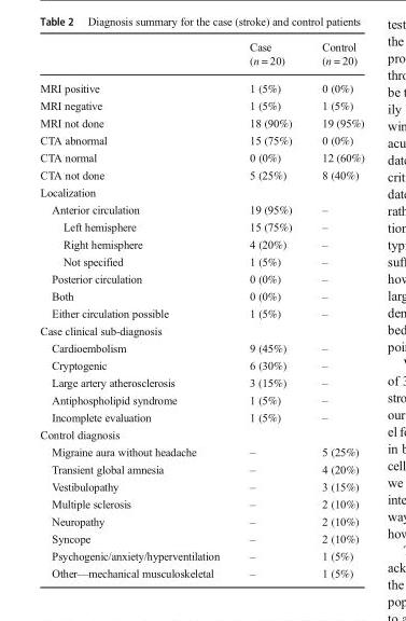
<table><thead><tr><td></td><td>Case (n = 20)</td><td>Control (n = 20)</td></tr></thead><tbody><tr><td>MRI positive</td><td>1 (5%)</td><td>0 (0%)</td></tr><tr><td>MRI negative</td><td>1 (5%)</td><td>1 (5%)</td></tr><tr><td>MRI not done</td><td>18 (90%)</td><td>19 (95%)</td></tr><tr><td>CTA abnormal</td><td>15 (75%)</td><td>0 (0%)</td></tr><tr><td>CTA normal</td><td>0 (0%)</td><td>12 (60%)</td></tr><tr><td>CTA not done</td><td>5 (25%)</td><td>8 (40%)</td></tr><tr><td colspan="3">Localization</td></tr><tr><td>Anterior circulation</td><td>19 (95%)</td><td>–</td></tr><tr><td>Left hemisphere</td><td>15 (75%)</td><td>–</td></tr><tr><td>Right hemisphere</td><td>4 (20%)</td><td>–</td></tr><tr><td>Not specified</td><td>1 (5%)</td><td>–</td></tr><tr><td>Posterior circulation</td><td>0 (0%)</td><td>–</td></tr><tr><td>Both</td><td>0 (0%)</td><td>–</td></tr><tr><td>Either circulation possible</td><td>1 (5%)</td><td>–</td></tr><tr><td colspan="3">Case clinical sub-diagnosis</td></tr><tr><td>Cardioembolism</td><td>9 (45%)</td><td>–</td></tr><tr><td>Cryptogenic</td><td>6 (30%)</td><td>–</td></tr><tr><td>Large artery atherosclerosis</td><td>3 (15%)</td><td>–</td></tr><tr><td>Antiphospholipid syndrome</td><td>1 (5%)</td><td>–</td></tr><tr><td>Incomplete evaluation</td><td>1 (5%)</td><td>–</td></tr><tr><td colspan="3">Control diagnosis</td></tr><tr><td>Migraine aura without headache</td><td>–</td><td>5 (25%)</td></tr><tr><td>Transient global amnesia</td><td>–</td><td>4 (20%)</td></tr><tr><td>Vestibulopathy</td><td>–</td><td>3 (15%)</td></tr><tr><td>Multiple sclerosis</td><td>–</td><td>2 (10%)</td></tr><tr><td>Neuropathy</td><td>–</td><td>2 (10%)</td></tr><tr><td>Syncope</td><td>–</td><td>2 (10%)</td></tr><tr><td>Psychogenic/anxiety/hyperventilation</td><td>–</td><td>1 (5%)</td></tr><tr><td>Other—mechanical musculoskeletal</td><td>–</td><td>1 (5%)</td></tr></tbody></table>